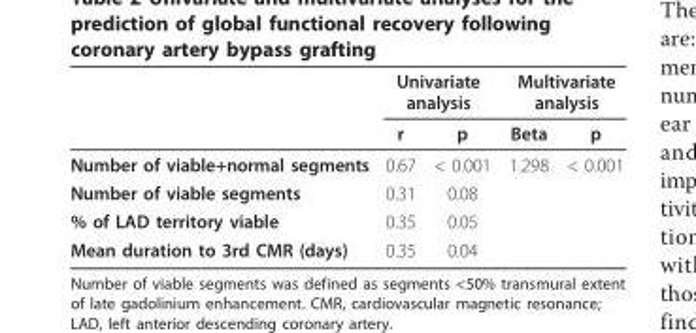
<table><thead><tr><td rowspan="2"></td><td colspan="2">Univariate analysis</td><td colspan="2">Multivariate analysis</td></tr><tr><td>r</td><td>p</td><td>Beta</td><td>p</td></tr></thead><tbody><tr><td>Number of viable+normal segments</td><td>0.67</td><td>&lt; 0.001</td><td>1.298</td><td>&lt; 0.001</td></tr><tr><td>Number of viable segments</td><td>0.31</td><td>0.08</td><td></td><td></td></tr><tr><td>% of LAD territory viable</td><td>0.35</td><td>0.05</td><td></td><td></td></tr><tr><td>Mean duration to 3rd CMR (days)</td><td>0.35</td><td>0.04</td><td></td><td></td></tr></tbody></table>